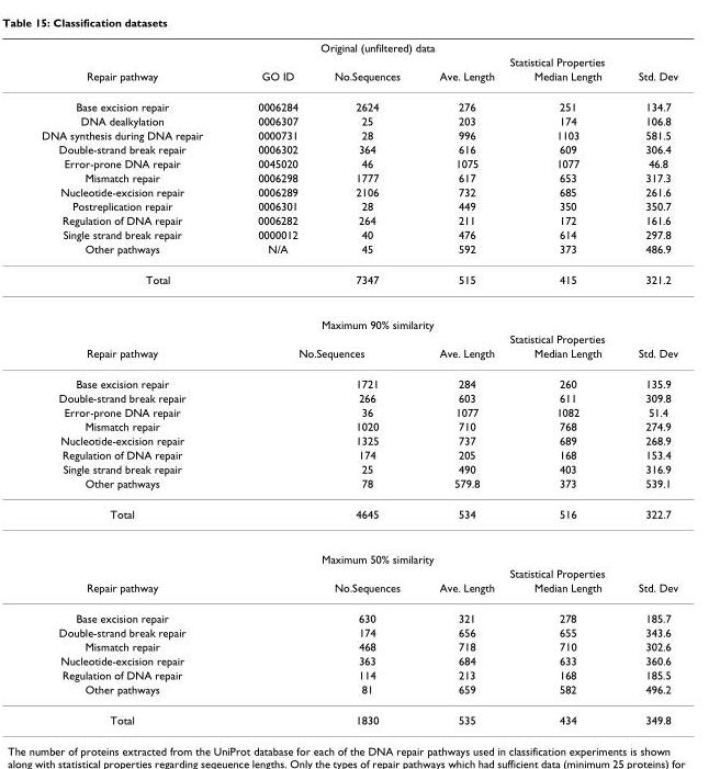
<table><thead><tr><td rowspan="3">Repair pathway</td><td colspan="3">Original (unfiltered) data</td><td></td><td></td></tr><tr><td rowspan="2">GO ID</td><td rowspan="2">No.Sequences</td><td colspan="3">Statistical Properties</td></tr><tr><td>Ave. Length</td><td>Median Length</td><td>Std. Dev</td></tr></thead><tbody><tr><td>Base excision repair</td><td>0006284</td><td>2624</td><td>276</td><td>251</td><td>134.7</td></tr><tr><td>DNA dealkylation</td><td>0006307</td><td>25</td><td>203</td><td>174</td><td>106.8</td></tr><tr><td>DNA synthesis during DNA repair</td><td>0000731</td><td>28</td><td>996</td><td>1103</td><td>581.5</td></tr><tr><td>Double-strand break repair</td><td>0006302</td><td>364</td><td>616</td><td>609</td><td>306.4</td></tr><tr><td>Error-prone DNA repair</td><td>0045020</td><td>46</td><td>1075</td><td>1077</td><td>46.8</td></tr><tr><td>Mismatch repair</td><td>0006298</td><td>1777</td><td>617</td><td>653</td><td>317.3</td></tr><tr><td>Nucleotide-excision repair</td><td>0006289</td><td>2106</td><td>732</td><td>685</td><td>261.6</td></tr><tr><td>Postreplication repair</td><td>0006301</td><td>28</td><td>449</td><td>350</td><td>350.7</td></tr><tr><td>Regulation of DNA repair</td><td>0006282</td><td>264</td><td>211</td><td>172</td><td>161.6</td></tr><tr><td>Single strand break repair</td><td>0000012</td><td>40</td><td>476</td><td>614</td><td>297.8</td></tr><tr><td>Other pathways</td><td>N/A</td><td>45</td><td>592</td><td>373</td><td>486.9</td></tr><tr><td colspan="2">Total</td><td>7347</td><td>515</td><td>415</td><td>321.2</td></tr><tr><td></td><td colspan="3">Maximum 90% similarity</td><td></td><td></td></tr><tr><td></td><td></td><td></td><td colspan="3">Statistical Properties</td></tr><tr><td>Repair pathway</td><td colspan="2">No.Sequences</td><td>Ave. Length</td><td>Median Length</td><td>Std. Dev</td></tr><tr><td>Base excision repair</td><td></td><td>1721</td><td>284</td><td>260</td><td>135.9</td></tr><tr><td>Double-strand break repair</td><td></td><td>266</td><td>603</td><td>611</td><td>309.8</td></tr><tr><td>Error-prone DNA repair</td><td></td><td>36</td><td>1077</td><td>1082</td><td>51.4</td></tr><tr><td>Mismatch repair</td><td></td><td>1020</td><td>710</td><td>768</td><td>274.9</td></tr><tr><td>Nucleotide-excision repair</td><td></td><td>1325</td><td>737</td><td>689</td><td>268.9</td></tr><tr><td>Regulation of DNA repair</td><td></td><td>174</td><td>205</td><td>168</td><td>153.4</td></tr><tr><td>Single strand break repair</td><td></td><td>25</td><td>490</td><td>403</td><td>316.9</td></tr><tr><td>Other pathways</td><td></td><td>78</td><td>579.8</td><td>373</td><td>539.1</td></tr><tr><td rowspan="3">Total</td><td></td><td>4645</td><td>534</td><td>516</td><td>322.7</td></tr><tr><td colspan="3">Maximum 50% similarity</td><td></td><td></td></tr><tr><td></td><td></td><td colspan="3">Statistical Properties</td></tr><tr><td>Repair pathway</td><td></td><td>No.Sequences</td><td>Ave. Length</td><td>Median Length</td><td>Std. Dev</td></tr><tr><td>Base excision repair</td><td></td><td>630</td><td>321</td><td>278</td><td>185.7</td></tr><tr><td>Double-strand break repair</td><td></td><td>174</td><td>656</td><td>655</td><td>343.6</td></tr><tr><td>Mismatch repair</td><td></td><td>468</td><td>718</td><td>710</td><td>302.6</td></tr><tr><td>Nucleotide-excision repair</td><td></td><td>363</td><td>684</td><td>633</td><td>360.6</td></tr><tr><td>Regulation of DNA repair</td><td></td><td>114</td><td>213</td><td>168</td><td>185.5</td></tr><tr><td>Other pathways</td><td></td><td>81</td><td>659</td><td>582</td><td>496.2</td></tr><tr><td>Total</td><td></td><td>1830</td><td>535</td><td>434</td><td>349.8</td></tr></tbody></table>